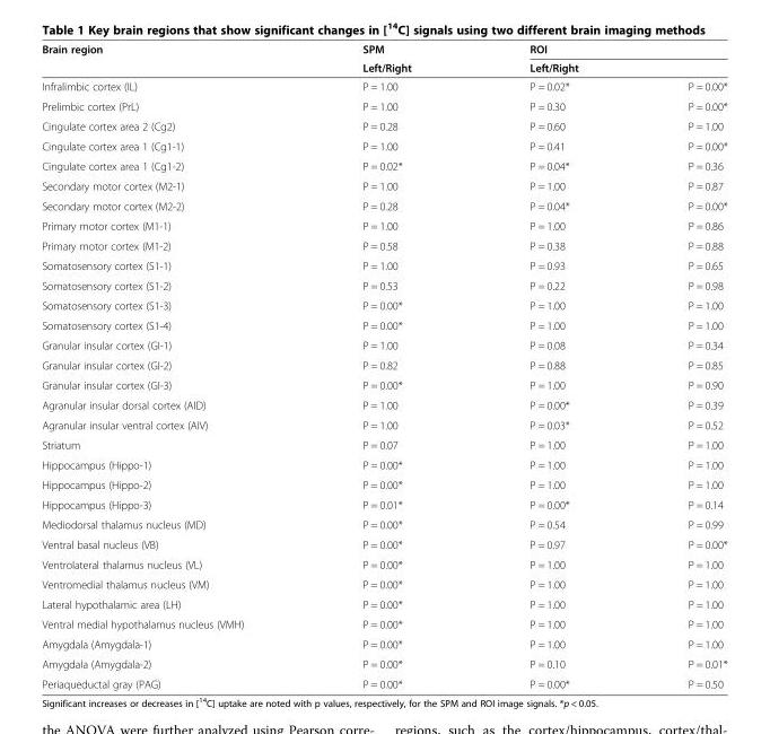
<table><thead><tr><td rowspan="3">Brain region Infralimbic cortex (IL)</td><td rowspan="3">SPM Left/Right P = 1.00</td><td rowspan="2" colspan="2">ROI Left/Right</td></tr><tr></tr><tr><td>P = 0.02*</td><td>P = 0.00*</td></tr></thead><tbody><tr><td>Prelimbic cortex (PrL)</td><td>P = 1.00</td><td>P = 0.30</td><td>P = 0.00*</td></tr><tr><td>Cingulate cortex area 2 (Cg2)</td><td>P = 0.28</td><td>P = 0.60</td><td>P = 1.00</td></tr><tr><td>Cingulate cortex area 1 (Cg1-1)</td><td>P = 1.00</td><td>P = 0.41</td><td>P = 0.00*</td></tr><tr><td>Cingulate cortex area 1 (Cg1-2)</td><td>P = 0.02*</td><td>P = 0.04*</td><td>P = 0.36</td></tr><tr><td>Secondary motor cortex (M2-1)</td><td>P = 1.00</td><td>P = 1.00</td><td>P = 0.87</td></tr><tr><td>Secondary motor cortex (M2-2)</td><td>P = 0.28</td><td>P = 0.04*</td><td>P = 0.00*</td></tr><tr><td>Primary motor cortex (M1-1)</td><td>P = 1.00</td><td>P = 1.00</td><td>P = 0.86</td></tr><tr><td>Primary motor cortex (M1-2)</td><td>P = 0.58</td><td>P = 0.38</td><td>P = 0.88</td></tr><tr><td>Somatosensory cortex (S1-1)</td><td>P = 1.00</td><td>P = 0.93</td><td>P = 0.65</td></tr><tr><td>Somatosensory cortex (S1-2)</td><td>P = 0.53</td><td>P = 0.22</td><td>P = 0.98</td></tr><tr><td>Somatosensory cortex (S1-3)</td><td>P = 0.00*</td><td>P = 1.00</td><td>P = 1.00</td></tr><tr><td>Somatosensory cortex (S1-4)</td><td>P = 0.00*</td><td>P = 1.00</td><td>P = 1.00</td></tr><tr><td>Granular insular cortex (GI-1)</td><td>P = 1.00</td><td>P = 0.08</td><td>P = 0.34</td></tr><tr><td>Granular insular cortex (GI-2)</td><td>P = 0.82</td><td>P = 0.88</td><td>P = 0.85</td></tr><tr><td>Granular insular cortex (GI-3)</td><td>P = 0.00*</td><td>P = 1.00</td><td>P = 0.90</td></tr><tr><td>Agranular insular dorsal cortex (AID)</td><td>P = 1.00</td><td>P = 0.00*</td><td>P = 0.39</td></tr><tr><td>Agranular insular ventral cortex (AIV)</td><td>P = 1.00</td><td>P = 0.03*</td><td>P = 0.52</td></tr><tr><td>Striatum</td><td>P = 0.07</td><td>P = 1.00</td><td>P = 1.00</td></tr><tr><td>Hippocampus (Hippo-1)</td><td>P = 0.00*</td><td>P = 1.00</td><td>P = 1.00</td></tr><tr><td>Hippocampus (Hippo-2)</td><td>P = 0.00*</td><td>P = 1.00</td><td>P = 1.00</td></tr><tr><td>Hippocampus (Hippo-3)</td><td>P = 0.01*</td><td>P = 0.00*</td><td>P = 0.14</td></tr><tr><td>Mediodorsal thalamus nucleus (MD)</td><td>P = 0.00*</td><td>P = 0.54</td><td>P = 0.99</td></tr><tr><td>Ventral basal nucleus (VB)</td><td>P = 0.00*</td><td>P = 0.97</td><td>P = 0.00*</td></tr><tr><td>Ventrolateral thalamus nucleus (VL)</td><td>P = 0.00*</td><td>P = 1.00</td><td>P = 1.00</td></tr><tr><td>Ventromedial thalamus nucleus (VM)</td><td>P = 0.00*</td><td>P = 1.00</td><td>P = 1.00</td></tr><tr><td>Lateral hypothalamic area (LH)</td><td>P = 0.00*</td><td>P = 1.00</td><td>P = 1.00</td></tr><tr><td>Ventral medial hypothalamus nucleus (VMH)</td><td>P = 0.00*</td><td>P = 1.00</td><td>P = 1.00</td></tr><tr><td>Amygdala (Amygdala-1)</td><td>P = 0.00*</td><td>P = 1.00</td><td>P = 1.00</td></tr><tr><td>Amygdala (Amygdala-2)</td><td>P = 0.00*</td><td>P = 0.10</td><td>P = 0.01*</td></tr><tr><td>Periaqueductal gray (PAG)</td><td>P = 0.00*</td><td>P = 0.00*</td><td>P = 0.50</td></tr></tbody></table>